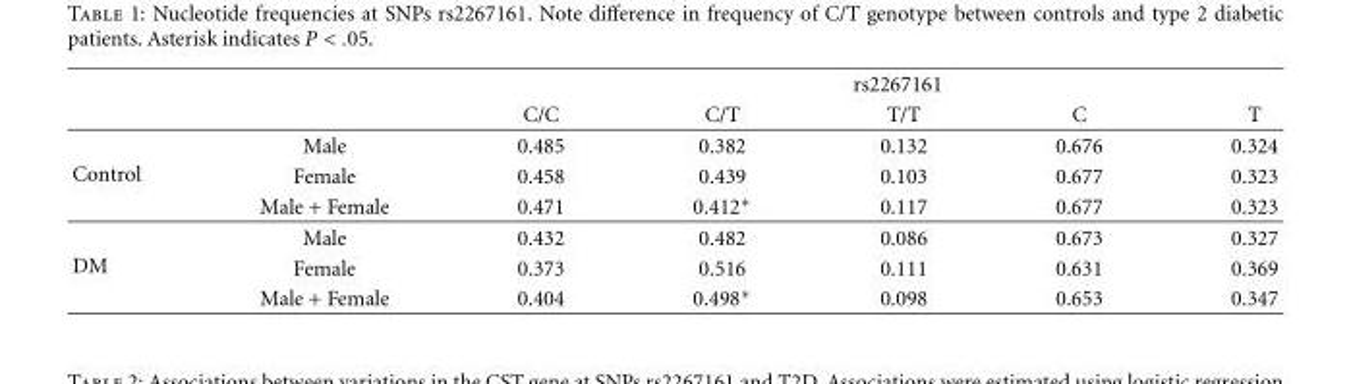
<table><thead><tr><td rowspan="2"></td><td rowspan="2"></td><td colspan="5">rs2267161</td></tr><tr><td>C/C</td><td>C/T</td><td>T/T</td><td>C</td><td>T</td></tr></thead><tbody><tr><td rowspan="3">Control</td><td>Male</td><td>0.485</td><td>0.382</td><td>0.132</td><td>0.676</td><td>0.324</td></tr><tr><td>Female</td><td>0.458</td><td>0.439</td><td>0.103</td><td>0.677</td><td>0.323</td></tr><tr><td>Male + Female</td><td>0.471</td><td>0.412∗</td><td>0.117</td><td>0.677</td><td>0.323</td></tr><tr><td rowspan="3">DM</td><td>Male</td><td>0.432</td><td>0.482</td><td>0.086</td><td>0.673</td><td>0.327</td></tr><tr><td>Female</td><td>0.373</td><td>0.516</td><td>0.111</td><td>0.631</td><td>0.369</td></tr><tr><td>Male + Female</td><td>0.404</td><td>0.498∗</td><td>0.098</td><td>0.653</td><td>0.347</td></tr></tbody></table>